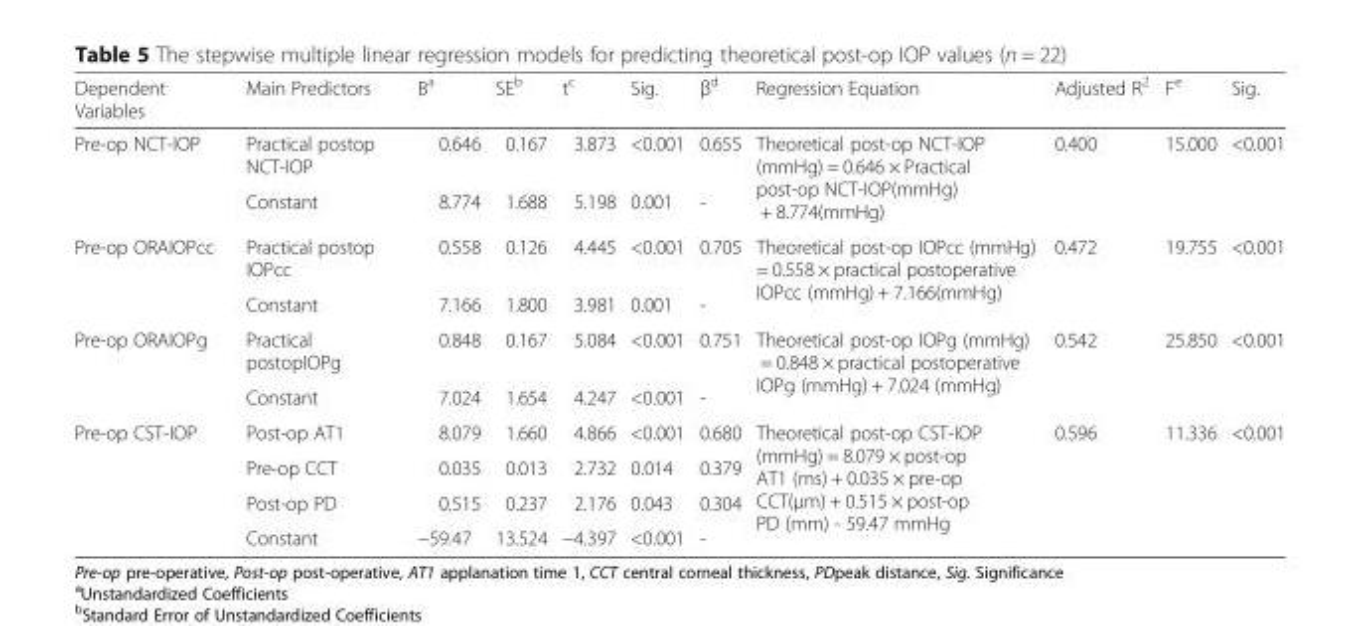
<table><thead><tr><td>Dependent Variables</td><td>Main Predictors</td><td>B<sup>a</sup></td><td>SE<sup>b</sup></td><td>t<sup>c</sup></td><td>Sig.</td><td>β<sup>d</sup></td><td>Regression Equation</td><td>Adjusted R<sup>2</sup></td><td>F<sup>e</sup></td><td>Sig.</td></tr></thead><tbody><tr><td rowspan="2">Pre-op NCT-IOP</td><td>Practical postop NCT-IOP</td><td>0.646</td><td>0.167</td><td>3.873</td><td>&lt;0.001</td><td>0.655</td><td rowspan="2">Theoretical post-op NCT-IOP (mmHg) = 0.646 × Practical post-op NCT-IOP(mmHg) + 8.774(mmHg)</td><td rowspan="2">0.400</td><td rowspan="2">15.000</td><td rowspan="2">&lt;0.001</td></tr><tr><td>Constant</td><td>8.774</td><td>1.688</td><td>5.198</td><td>0.001</td><td>-</td></tr><tr><td rowspan="2">Pre-op ORAIOPcc</td><td>Practical postop IOPcc</td><td>0.558</td><td>0.126</td><td>4.445</td><td>&lt;0.001</td><td>0.705</td><td rowspan="2">Theoretical post-op IOPcc (mmHg) = 0.558 × practical postoperative IOPcc (mmHg) + 7.166(mmHg)</td><td rowspan="2">0.472</td><td rowspan="2">19.755</td><td rowspan="2">&lt;0.001</td></tr><tr><td>Constant</td><td>7.166</td><td>1.800</td><td>3.981</td><td>0.001</td><td>-</td></tr><tr><td rowspan="2">Pre-op ORAIOPg</td><td>Practical postopIOPg</td><td>0.848</td><td>0.167</td><td>5.084</td><td>&lt;0.001</td><td>0.751</td><td rowspan="2">Theoretical post-op IOPg (mmHg) = 0.848 × practical postoperative IOPg (mmHg) + 7.024 (mmHg)</td><td rowspan="2">0.542</td><td rowspan="2">25.850</td><td rowspan="2">&lt;0.001</td></tr><tr><td>Constant</td><td>7.024</td><td>1.654</td><td>4.247</td><td>&lt;0.001</td><td>-</td></tr><tr><td rowspan="4">Pre-op CST-IOP</td><td>Post-op AT1</td><td>8.079</td><td>1.660</td><td>4.866</td><td>&lt;0.001</td><td>0.680</td><td rowspan="4">Theoretical post-op CST-IOP (mmHg) = 8.079 × post-op AT1 (ms) + 0.035 × pre-op CCT(μm) + 0.515 × post-op PD (mm) - 59.47 mmHg</td><td rowspan="4">0.596</td><td rowspan="4">11.336</td><td rowspan="4">&lt;0.001</td></tr><tr><td>Pre-op CCT</td><td>0.035</td><td>0.013</td><td>2.732</td><td>0.014</td><td>0.379</td></tr><tr><td>Post-op PD</td><td>0.515</td><td>0.237</td><td>2.176</td><td>0.043</td><td>0.304</td></tr><tr><td>Constant</td><td>−59.47</td><td>13.524</td><td>−4.397</td><td>&lt;0.001</td><td>-</td></tr></tbody></table>